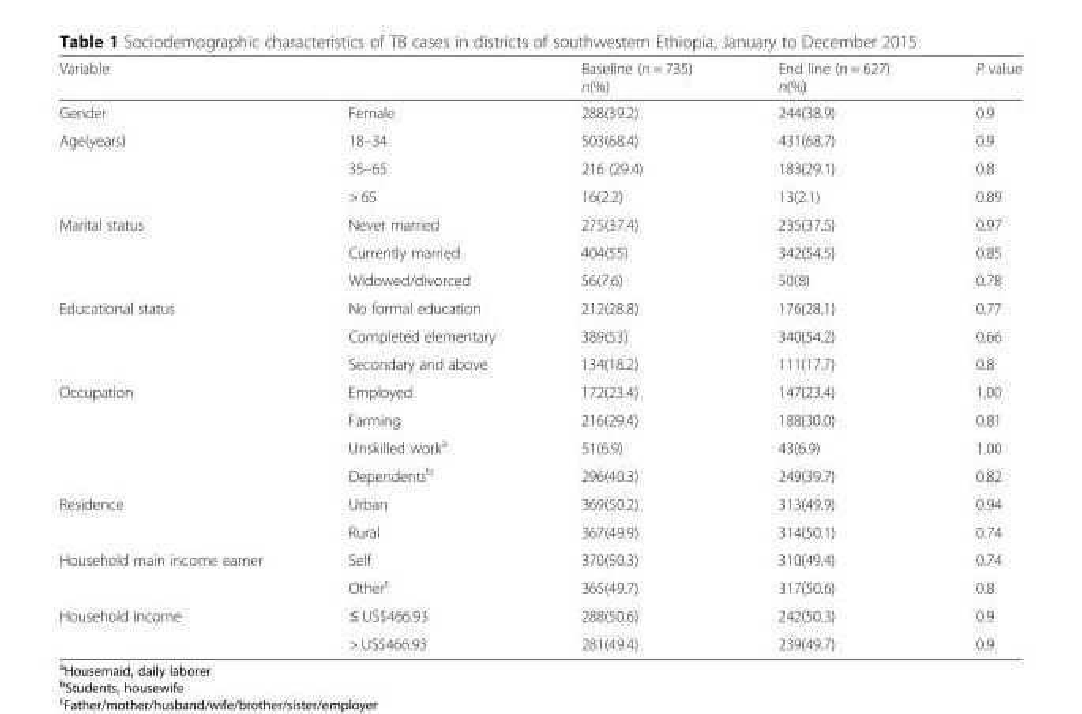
<table><thead><tr><td colspan="2">Variable</td><td rowspan="2">Baseline (n = 735) n(%) 288(39.2)</td><td rowspan="2">End line (n = 627) n(%) 244(38.9)</td><td rowspan="2">P value 0.9</td></tr><tr><td>Gender</td><td>Female</td></tr></thead><tbody><tr><td rowspan="3">Age(years)</td><td>18–34</td><td>503(68.4)</td><td>431(68.7)</td><td>0.9</td></tr><tr><td>35–65</td><td>216 (29.4)</td><td>183(29.1)</td><td>0.8</td></tr><tr><td>&gt; 65</td><td>16(2.2)</td><td>13(2.1)</td><td>0.89</td></tr><tr><td rowspan="3">Marital status</td><td>Never married</td><td>275(37.4)</td><td>235(37.5)</td><td>0.97</td></tr><tr><td>Currently married</td><td>404(55)</td><td>342(54.5)</td><td>0.85</td></tr><tr><td>Widowed/divorced</td><td>56(7.6)</td><td>50(8)</td><td>0.78</td></tr><tr><td rowspan="3">Educational status</td><td>No formal education</td><td>212(28.8)</td><td>176(28.1)</td><td>0.77</td></tr><tr><td>Completed elementary</td><td>389(53)</td><td>340(54.2)</td><td>0.66</td></tr><tr><td>Secondary and above</td><td>134(18.2)</td><td>111(17.7)</td><td>0.8</td></tr><tr><td rowspan="4">Occupation</td><td>Employed</td><td>172(23.4)</td><td>147(23.4)</td><td>1.00</td></tr><tr><td>Farming</td><td>216(29.4)</td><td>188(30.0)</td><td>0.81</td></tr><tr><td>Unskilled work<sup>a</sup></td><td>51(6.9)</td><td>43(6.9)</td><td>1.00</td></tr><tr><td>Dependents<sup>b</sup></td><td>296(40.3)</td><td>249(39.7)</td><td>0.82</td></tr><tr><td rowspan="2">Residence</td><td>Urban</td><td>369(50.2)</td><td>313(49.9)</td><td>0.94</td></tr><tr><td>Rural</td><td>367(49.9)</td><td>314(50.1)</td><td>0.74</td></tr><tr><td rowspan="2">Household main income earner</td><td>Self</td><td>370(50.3)</td><td>310(49.4)</td><td>0.74</td></tr><tr><td>Other<sup>c</sup></td><td>365(49.7)</td><td>317(50.6)</td><td>0.8</td></tr><tr><td rowspan="2">Household income</td><td>≤ US$466.93</td><td>288(50.6)</td><td>242(50.3)</td><td>0.9</td></tr><tr><td>&gt; US$466.93</td><td>281(49.4)</td><td>239(49.7)</td><td>0.9</td></tr></tbody></table>